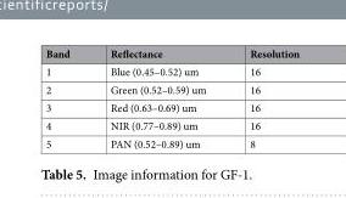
<table><thead><tr><td>Band</td><td>Reflectance</td><td>Resolution</td></tr></thead><tbody><tr><td>1</td><td>Blue (0.45–0.52) um</td><td>16</td></tr><tr><td>2</td><td>Green (0.52–0.59) um</td><td>16</td></tr><tr><td>3</td><td>Red (0.63–0.69) um</td><td>16</td></tr><tr><td>4</td><td>NIR (0.77–0.89) um</td><td>16</td></tr><tr><td>5</td><td>PAN (0.52–0.89) um</td><td>8</td></tr></tbody></table>